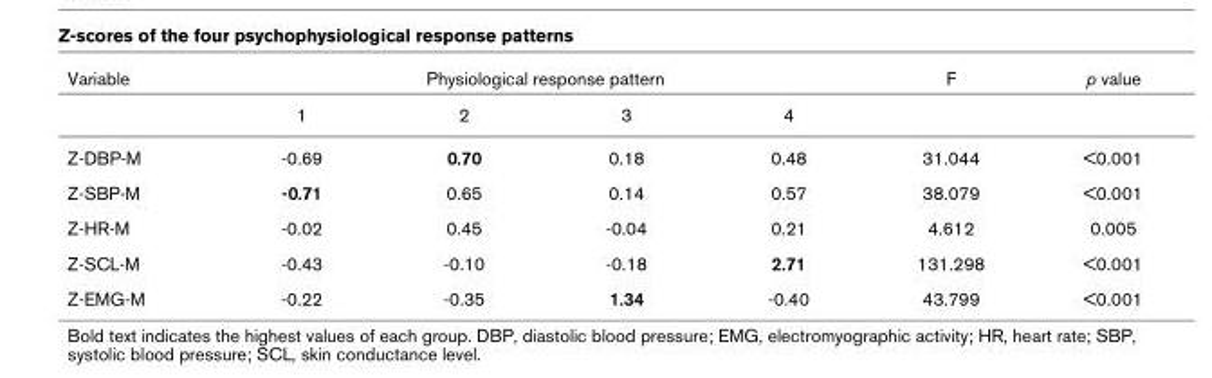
<table><thead><tr><td rowspan="2">Variable</td><td colspan="4">Physiological response pattern</td><td rowspan="2">F</td><td rowspan="2">p value</td></tr><tr><td>1</td><td>2</td><td>3</td><td>4</td></tr></thead><tbody><tr><td>Z-DBP-M</td><td>-0.69</td><td>0.70</td><td>0.18</td><td>0.48</td><td>31.044</td><td>&lt;0.001</td></tr><tr><td>Z-SBP-M</td><td>-0.71</td><td>0.65</td><td>0.14</td><td>0.57</td><td>38.079</td><td>&lt;0.001</td></tr><tr><td>Z-HR-M</td><td>-0.02</td><td>0.45</td><td>-0.04</td><td>0.21</td><td>4.612</td><td>0.005</td></tr><tr><td>Z-SCL-M</td><td>-0.43</td><td>-0.10</td><td>-0.18</td><td>2.71</td><td>131.298</td><td>&lt;0.001</td></tr><tr><td>Z-EMG-M</td><td>-0.22</td><td>-0.35</td><td>1.34</td><td>-0.40</td><td>43.799</td><td>&lt;0.001</td></tr></tbody></table>